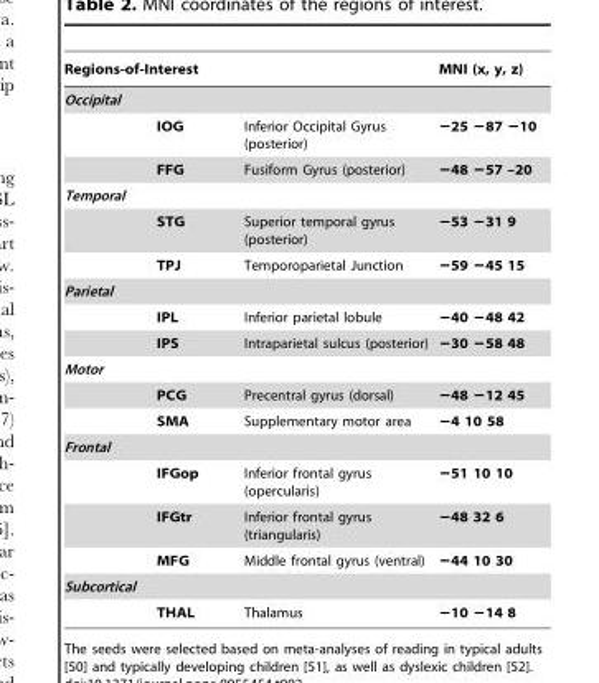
<table><thead><tr><td colspan="3">Regions-of-Interest</td><td rowspan="2">MNI (x, y, z)</td></tr><tr><td>Occipital</td><td></td><td></td></tr></thead><tbody><tr><td></td><td>IOG</td><td>Inferior Occipital Gyrus (posterior)</td><td>−25 −87 −10</td></tr><tr><td></td><td>FFG</td><td>Fusiform Gyrus (posterior)</td><td>−48 −57 –20</td></tr><tr><td colspan="4">Temporal</td></tr><tr><td></td><td>STG</td><td>Superior temporal gyrus (posterior)</td><td>−53 −31 9</td></tr><tr><td></td><td>TPJ</td><td>Temporoparietal Junction</td><td>−59 −45 15</td></tr><tr><td colspan="4">Parietal</td></tr><tr><td></td><td>IPL</td><td>Inferior parietal lobule</td><td>−40 −48 42</td></tr><tr><td></td><td>IPS</td><td>Intraparietal sulcus (posterior)</td><td>−30 −58 48</td></tr><tr><td colspan="4">Motor</td></tr><tr><td></td><td>PCG</td><td>Precentral gyrus (dorsal)</td><td>−48 −12 45</td></tr><tr><td></td><td>SMA</td><td>Supplementary motor area</td><td>−4 10 58</td></tr><tr><td colspan="4">Frontal</td></tr><tr><td></td><td>IFGop</td><td>Inferior frontal gyrus (opercularis)</td><td>−51 10 10</td></tr><tr><td></td><td>IFGtr</td><td>Inferior frontal gyrus (triangularis)</td><td>−48 32 6</td></tr><tr><td></td><td>MFG</td><td>Middle frontal gyrus (ventral)</td><td>−44 10 30</td></tr><tr><td colspan="4">Subcortical</td></tr><tr><td></td><td>THAL</td><td>Thalamus</td><td>−10 −14 8</td></tr></tbody></table>